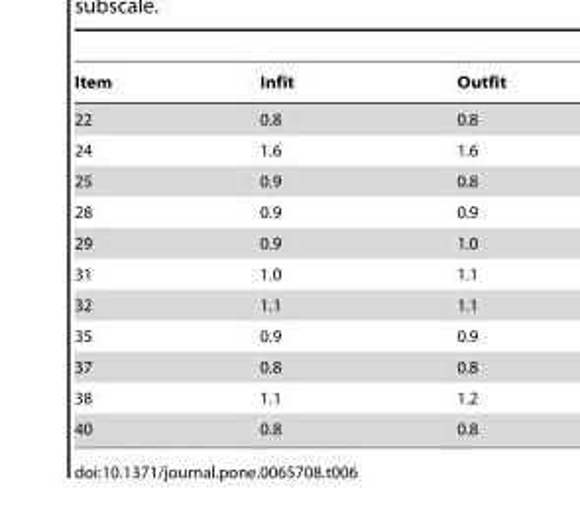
<table><thead><tr><td>Item</td><td>Infit</td><td>Outfit</td></tr></thead><tbody><tr><td>22</td><td>0.8</td><td>0.8</td></tr><tr><td>24</td><td>1.6</td><td>1.6</td></tr><tr><td>25</td><td>0.9</td><td>0.8</td></tr><tr><td>28</td><td>0.9</td><td>0.9</td></tr><tr><td>29</td><td>0.9</td><td>1.0</td></tr><tr><td>31</td><td>1.0</td><td>1.1</td></tr><tr><td>32</td><td>1.1</td><td>1.1</td></tr><tr><td>35</td><td>0.9</td><td>0.9</td></tr><tr><td>37</td><td>0.8</td><td>0.8</td></tr><tr><td>38</td><td>1.1</td><td>1.2</td></tr><tr><td>40</td><td>0.8</td><td>0.8</td></tr></tbody></table>